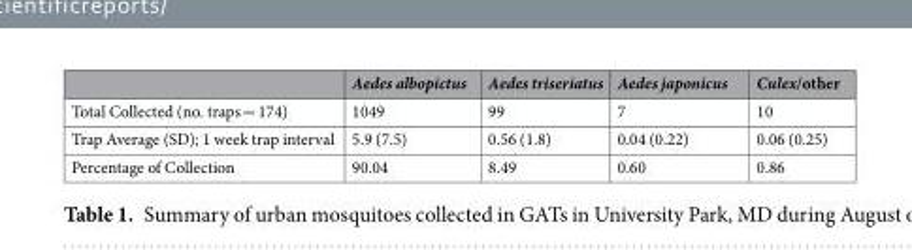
<table><thead><tr><td></td><td>Aedes albopictus</td><td>Aedes triseriatus</td><td>Aedes japonicus</td><td>Culex/other</td></tr></thead><tbody><tr><td>Total Collected (no. traps = 174)</td><td>1049</td><td>99</td><td>7</td><td>10</td></tr><tr><td>Trap Average (SD); 1 week trap interval</td><td>5.9 (7.5)</td><td>0.56 (1.8)</td><td>0.04 (0.22)</td><td>0.06 (0.25)</td></tr><tr><td>Percentage of Collection</td><td>90.04</td><td>8.49</td><td>0.60</td><td>0.86</td></tr></tbody></table>